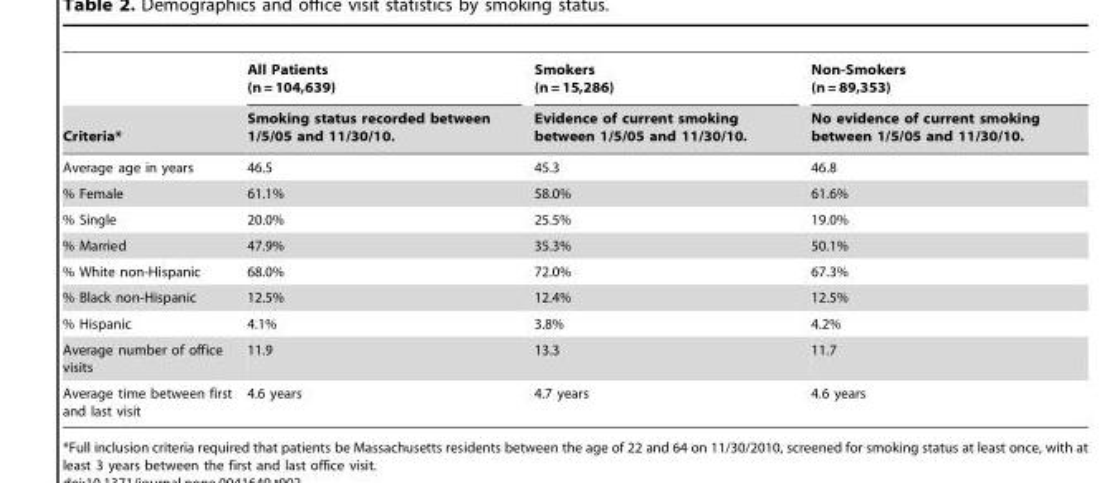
<table><thead><tr><td rowspan="2">Criteria*</td><td rowspan="2">All Patients (n = 104,639) Smoking status recorded between 1/5/05 and 11/30/10.</td><td rowspan="2">Smokers (n = 15,286) Evidence of current smoking between 1/5/05 and 11/30/10.</td><td rowspan="2">Non-Smokers (n = 89,353) No evidence of current smoking between 1/5/05 and 11/30/10.</td></tr><tr></tr></thead><tbody><tr><td>Average age in years</td><td>46.5</td><td>45.3</td><td>46.8</td></tr><tr><td>% Female</td><td>61.1%</td><td>58.0%</td><td>61.6%</td></tr><tr><td>% Single</td><td>20.0%</td><td>25.5%</td><td>19.0%</td></tr><tr><td>% Married</td><td>47.9%</td><td>35.3%</td><td>50.1%</td></tr><tr><td>% White non-Hispanic</td><td>68.0%</td><td>72.0%</td><td>67.3%</td></tr><tr><td>% Black non-Hispanic</td><td>12.5%</td><td>12.4%</td><td>12.5%</td></tr><tr><td>% Hispanic</td><td>4.1%</td><td>3.8%</td><td>4.2%</td></tr><tr><td>Average number of office visits</td><td>11.9</td><td>13.3</td><td>11.7</td></tr><tr><td>Average time between first and last visit</td><td>4.6 years</td><td>4.7 years</td><td>4.6 years</td></tr></tbody></table>